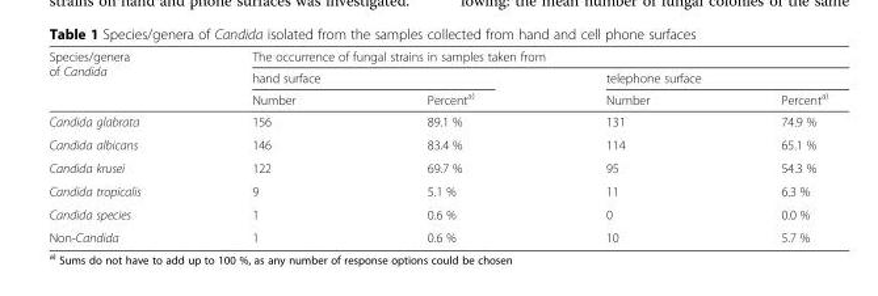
<table><thead><tr><td rowspan="3">Species/genera of Candida</td><td colspan="4">The occurrence of fungal strains in samples taken from</td></tr><tr><td colspan="2">hand surface</td><td colspan="2">telephone surface</td></tr><tr><td>Number</td><td>Percent<sup>a)</sup></td><td>Number</td><td>Percent<sup>a)</sup></td></tr></thead><tbody><tr><td>Candida glabrata</td><td>156</td><td>89.1 %</td><td>131</td><td>74.9 %</td></tr><tr><td>Candida albicans</td><td>146</td><td>83.4 %</td><td>114</td><td>65.1 %</td></tr><tr><td>Candida krusei</td><td>122</td><td>69.7 %</td><td>95</td><td>54.3 %</td></tr><tr><td>Candida tropicalis</td><td>9</td><td>5.1 %</td><td>11</td><td>6.3 %</td></tr><tr><td>Candida species</td><td>1</td><td>0.6 %</td><td>0</td><td>0.0 %</td></tr><tr><td>Non-Candida</td><td>1</td><td>0.6 %</td><td>10</td><td>5.7 %</td></tr></tbody></table>